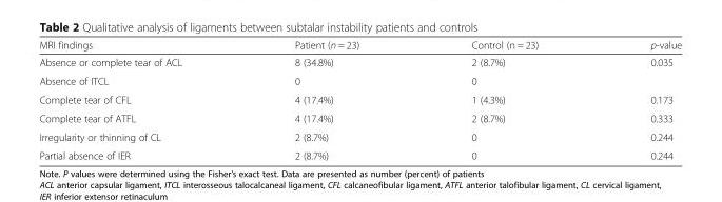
<table><thead><tr><td>MRI findings</td><td>Patient (n = 23)</td><td>Control (n = 23)</td><td>p-value</td></tr></thead><tbody><tr><td>Absence or complete tear of ACL</td><td>8 (34.8%)</td><td>2 (8.7%)</td><td>0.035</td></tr><tr><td>Absence of ITCL</td><td>0</td><td>0</td><td></td></tr><tr><td>Complete tear of CFL</td><td>4 (17.4%)</td><td>1 (4.3%)</td><td>0.173</td></tr><tr><td>Complete tear of ATFL</td><td>4 (17.4%)</td><td>2 (8.7%)</td><td>0.333</td></tr><tr><td>Irregularity or thinning of CL</td><td>2 (8.7%)</td><td>0</td><td>0.244</td></tr><tr><td>Partial absence of IER</td><td>2 (8.7%)</td><td>0</td><td>0.244</td></tr></tbody></table>